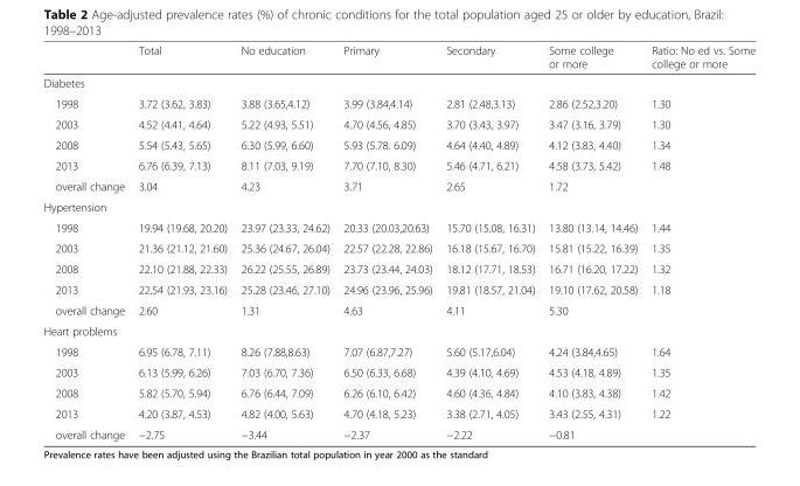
<table><thead><tr><td></td><td>Total</td><td>No education</td><td>Primary</td><td>Secondary</td><td>Some college or more</td><td>Ratio: No ed vs. Some college or more</td></tr></thead><tbody><tr><td colspan="7">Diabetes</td></tr><tr><td>1998</td><td>3.72 (3.62, 3.83)</td><td>3.88 (3.65,4.12)</td><td>3.99 (3.84,4.14)</td><td>2.81 (2.48,3.13)</td><td>2.86 (2.52,3.20)</td><td>1.30</td></tr><tr><td>2003</td><td>4.52 (4.41, 4.64)</td><td>5.22 (4.93, 5.51)</td><td>4.70 (4.56, 4.85)</td><td>3.70 (3.43, 3.97)</td><td>3.47 (3.16, 3.79)</td><td>1.30</td></tr><tr><td>2008</td><td>5.54 (5.43, 5.65)</td><td>6.30 (5.99, 6.60)</td><td>5.93 (5.78. 6.09)</td><td>4.64 (4.40, 4.89)</td><td>4.12 (3.83, 4.40)</td><td>1.34</td></tr><tr><td>2013</td><td>6.76 (6.39, 7.13)</td><td>8.11 (7.03, 9.19)</td><td>7.70 (7.10, 8.30)</td><td>5.46 (4.71, 6.21)</td><td>4.58 (3.73, 5.42)</td><td>1.48</td></tr><tr><td>overall change</td><td>3.04</td><td>4.23</td><td>3.71</td><td>2.65</td><td>1.72</td><td></td></tr><tr><td colspan="7">Hypertension</td></tr><tr><td>1998</td><td>19.94 (19.68, 20.20)</td><td>23.97 (23.33, 24.62)</td><td>20.33 (20.03,20.63)</td><td>15.70 (15.08, 16.31)</td><td>13.80 (13.14, 14.46)</td><td>1.44</td></tr><tr><td>2003</td><td>21.36 (21.12, 21.60)</td><td>25.36 (24.67, 26.04)</td><td>22.57 (22.28, 22.86)</td><td>16.18 (15.67, 16.70)</td><td>15.81 (15.22, 16.39)</td><td>1.35</td></tr><tr><td>2008</td><td>22.10 (21.88, 22.33)</td><td>26.22 (25.55, 26.89)</td><td>23.73 (23.44, 24.03)</td><td>18.12 (17.71, 18.53)</td><td>16.71 (16.20, 17.22)</td><td>1.32</td></tr><tr><td>2013</td><td>22.54 (21.93, 23.16)</td><td>25.28 (23.46, 27.10)</td><td>24.96 (23.96, 25.96)</td><td>19.81 (18.57, 21.04)</td><td>19.10 (17.62, 20.58)</td><td>1.18</td></tr><tr><td>overall change</td><td>2.60</td><td>1.31</td><td>4.63</td><td>4.11</td><td>5.30</td><td></td></tr><tr><td colspan="7">Heart problems</td></tr><tr><td>1998</td><td>6.95 (6.78, 7.11)</td><td>8.26 (7.88,8.63)</td><td>7.07 (6.87,7.27)</td><td>5.60 (5.17,6.04)</td><td>4.24 (3.84,4.65)</td><td>1.64</td></tr><tr><td>2003</td><td>6.13 (5.99, 6.26)</td><td>7.03 (6.70, 7.36)</td><td>6.50 (6.33, 6.68)</td><td>4.39 (4.10, 4.69)</td><td>4.53 (4.18, 4.89)</td><td>1.35</td></tr><tr><td>2008</td><td>5.82 (5.70, 5.94)</td><td>6.76 (6.44, 7.09)</td><td>6.26 (6.10, 6.42)</td><td>4.60 (4.36, 4.84)</td><td>4.10 (3.83, 4.38)</td><td>1.42</td></tr><tr><td>2013</td><td>4.20 (3.87, 4.53)</td><td>4.82 (4.00, 5.63)</td><td>4.70 (4.18, 5.23)</td><td>3.38 (2.71, 4.05)</td><td>3.43 (2.55, 4.31)</td><td>1.22</td></tr><tr><td>overall change</td><td>−2.75</td><td>−3.44</td><td>−2.37</td><td>−2.22</td><td>−0.81</td><td></td></tr></tbody></table>